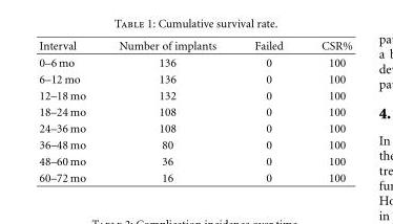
<table><thead><tr><td>Interval</td><td>Number of implants</td><td>Failed</td><td>CSR%</td></tr></thead><tbody><tr><td>0–6 mo</td><td>136</td><td>0</td><td>100</td></tr><tr><td>6–12 mo</td><td>136</td><td>0</td><td>100</td></tr><tr><td>12–18 mo</td><td>132</td><td>0</td><td>100</td></tr><tr><td>18–24 mo</td><td>108</td><td>0</td><td>100</td></tr><tr><td>24–36 mo</td><td>108</td><td>0</td><td>100</td></tr><tr><td>36–48 mo</td><td>80</td><td>0</td><td>100</td></tr><tr><td>48–60 mo</td><td>36</td><td>0</td><td>100</td></tr><tr><td>60–72 mo</td><td>16</td><td>0</td><td>100</td></tr></tbody></table>